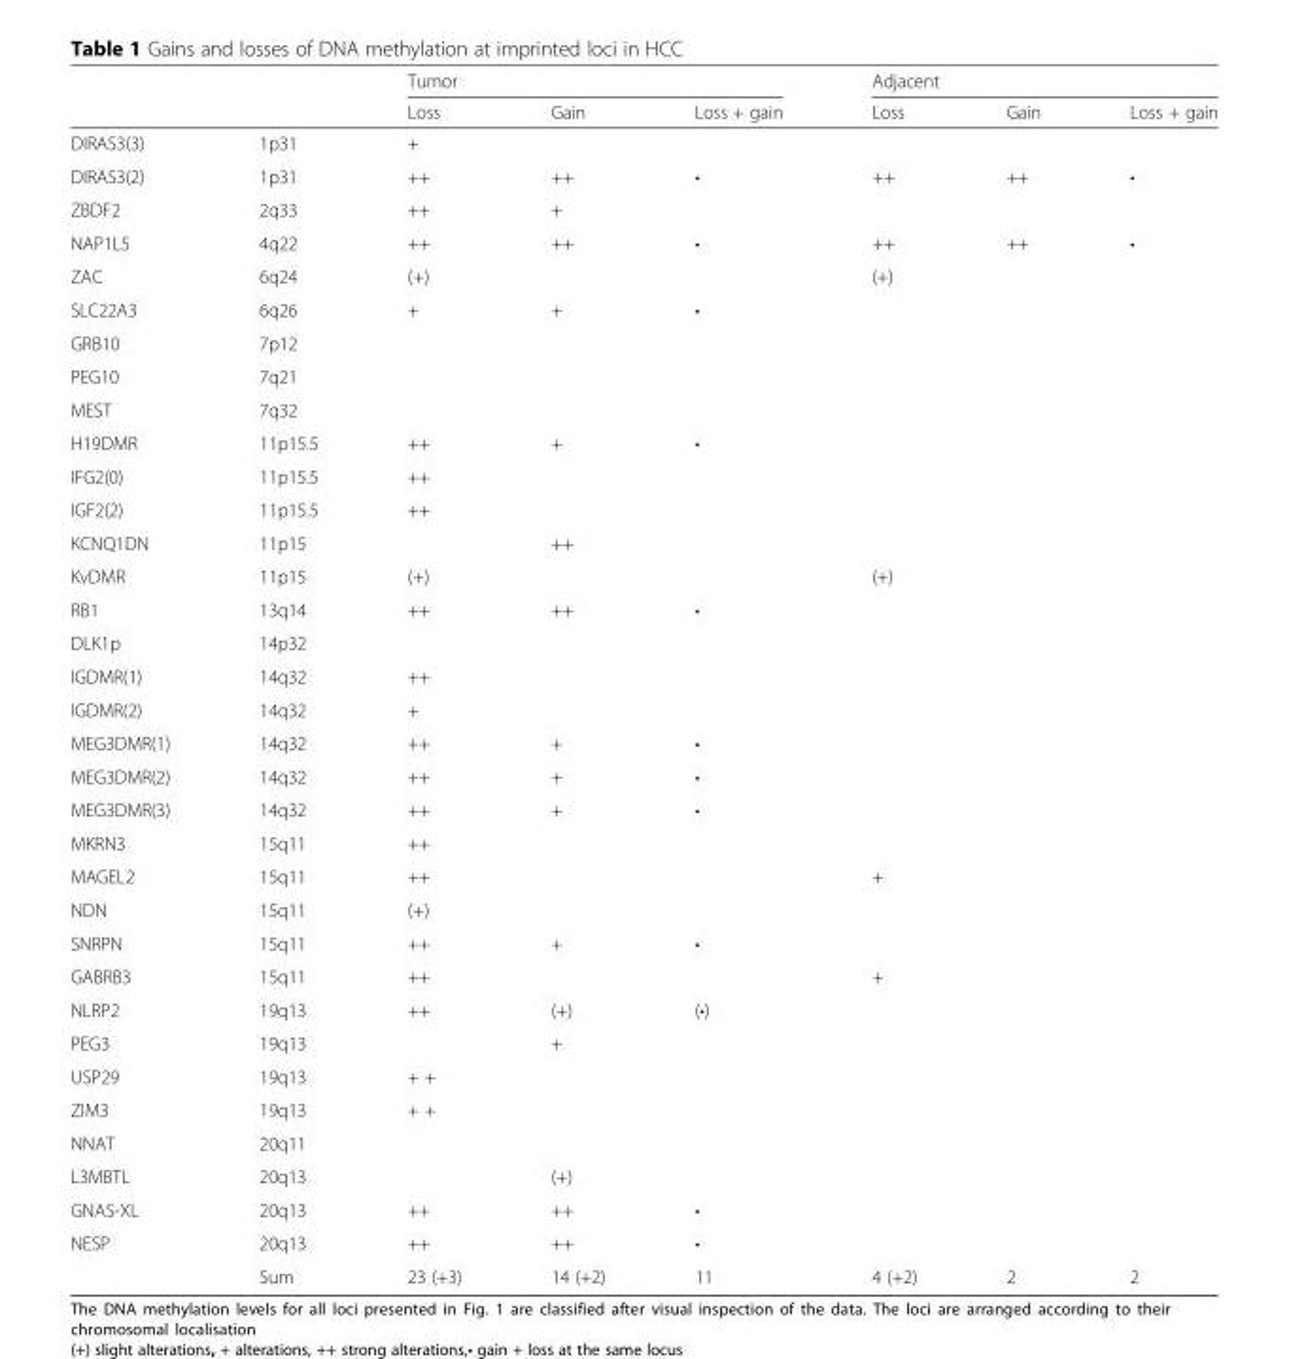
<table><thead><tr><td rowspan="2"></td><td rowspan="2"></td><td colspan="3">Tumor</td><td colspan="3">Adjacent</td></tr><tr><td>Loss</td><td>Gain</td><td>Loss + gain</td><td>Loss</td><td>Gain</td><td>Loss + gain</td></tr></thead><tbody><tr><td>DIRAS3(3)</td><td>1p31</td><td>+</td><td></td><td></td><td></td><td></td><td></td></tr><tr><td>DIRAS3(2)</td><td>1p31</td><td>++</td><td>++</td><td>•</td><td>++</td><td>++</td><td>•</td></tr><tr><td>ZBDF2</td><td>2q33</td><td>++</td><td>+</td><td></td><td></td><td></td><td></td></tr><tr><td>NAP1L5</td><td>4q22</td><td>++</td><td>++</td><td>•</td><td>++</td><td>++</td><td>•</td></tr><tr><td>ZAC</td><td>6q24</td><td>(+)</td><td></td><td></td><td>(+)</td><td></td><td></td></tr><tr><td>SLC22A3</td><td>6q26</td><td>+</td><td>+</td><td>•</td><td></td><td></td><td></td></tr><tr><td>GRB10</td><td>7p12</td><td></td><td></td><td></td><td></td><td></td><td></td></tr><tr><td>PEG10</td><td>7q21</td><td></td><td></td><td></td><td></td><td></td><td></td></tr><tr><td>MEST</td><td>7q32</td><td></td><td></td><td></td><td></td><td></td><td></td></tr><tr><td>H19DMR</td><td>11p15.5</td><td>++</td><td>+</td><td>•</td><td></td><td></td><td></td></tr><tr><td>IFG2(0)</td><td>11p15.5</td><td>++</td><td></td><td></td><td></td><td></td><td></td></tr><tr><td>IGF2(2)</td><td>11p15.5</td><td>++</td><td></td><td></td><td></td><td></td><td></td></tr><tr><td>KCNQ1DN</td><td>11p15</td><td></td><td>++</td><td></td><td></td><td></td><td></td></tr><tr><td>KvDMR</td><td>11p15</td><td>(+)</td><td></td><td></td><td>(+)</td><td></td><td></td></tr><tr><td>RB1</td><td>13q14</td><td>++</td><td>++</td><td>•</td><td></td><td></td><td></td></tr><tr><td>DLK1p</td><td>14p32</td><td></td><td></td><td></td><td></td><td></td><td></td></tr><tr><td>IGDMR(1)</td><td>14q32</td><td>++</td><td></td><td></td><td></td><td></td><td></td></tr><tr><td>IGDMR(2)</td><td>14q32</td><td>+</td><td></td><td></td><td></td><td></td><td></td></tr><tr><td>MEG3DMR(1)</td><td>14q32</td><td>++</td><td>+</td><td>•</td><td></td><td></td><td></td></tr><tr><td>MEG3DMR(2)</td><td>14q32</td><td>++</td><td>+</td><td>•</td><td></td><td></td><td></td></tr><tr><td>MEG3DMR(3)</td><td>14q32</td><td>++</td><td>+</td><td>•</td><td></td><td></td><td></td></tr><tr><td>MKRN3</td><td>15q11</td><td>++</td><td></td><td></td><td></td><td></td><td></td></tr><tr><td>MAGEL2</td><td>15q11</td><td>++</td><td></td><td></td><td>+</td><td></td><td></td></tr><tr><td>NDN</td><td>15q11</td><td>(+)</td><td></td><td></td><td></td><td></td><td></td></tr><tr><td>SNRPN</td><td>15q11</td><td>++</td><td>+</td><td>•</td><td></td><td></td><td></td></tr><tr><td>GABRB3</td><td>15q11</td><td>++</td><td></td><td></td><td>+</td><td></td><td></td></tr><tr><td>NLRP2</td><td>19q13</td><td>++</td><td>(+)</td><td>(•)</td><td></td><td></td><td></td></tr><tr><td>PEG3</td><td>19q13</td><td></td><td>+</td><td></td><td></td><td></td><td></td></tr><tr><td>USP29</td><td>19q13</td><td>+ +</td><td></td><td></td><td></td><td></td><td></td></tr><tr><td>ZIM3</td><td>19q13</td><td>+ +</td><td></td><td></td><td></td><td></td><td></td></tr><tr><td>NNAT</td><td>20q11</td><td></td><td></td><td></td><td></td><td></td><td></td></tr><tr><td>L3MBTL</td><td>20q13</td><td></td><td>(+)</td><td></td><td></td><td></td><td></td></tr><tr><td>GNAS-XL</td><td>20q13</td><td>++</td><td>++</td><td>•</td><td></td><td></td><td></td></tr><tr><td rowspan="2">NESP</td><td>20q13</td><td>++</td><td>++</td><td>•</td><td></td><td></td><td></td></tr><tr><td>Sum</td><td>23 (+3)</td><td>14 (+2)</td><td>11</td><td>4 (+2)</td><td>2</td><td>2</td></tr></tbody></table>